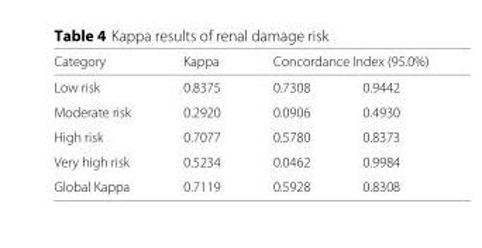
<table><thead><tr><td rowspan="2">Category Low risk</td><td rowspan="2">Kappa 0.8375</td><td colspan="2">Concordance Index (95.0%)</td></tr><tr><td>0.7308</td><td>0.9442</td></tr></thead><tbody><tr><td>Moderate risk</td><td>0.2920</td><td>0.0906</td><td>0.4930</td></tr><tr><td>High risk</td><td>0.7077</td><td>0.5780</td><td>0.8373</td></tr><tr><td>Very high risk</td><td>0.5234</td><td>0.0462</td><td>0.9984</td></tr><tr><td>Global Kappa</td><td>0.7119</td><td>0.5928</td><td>0.8308</td></tr></tbody></table>